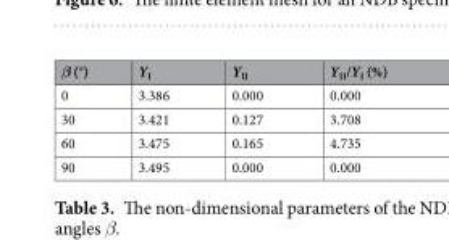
<table><thead><tr><td>β (°)</td><td>Y<sub>I</sub></td><td>Y<sub>II</sub></td><td>Y<sub>II</sub>/Y<sub>I</sub> (%)</td></tr></thead><tbody><tr><td>0</td><td>3.386</td><td>0.000</td><td>0.000</td></tr><tr><td>30</td><td>3.421</td><td>0.127</td><td>3.708</td></tr><tr><td>60</td><td>3.475</td><td>0.165</td><td>4.735</td></tr><tr><td>90</td><td>3.495</td><td>0.000</td><td>0.000</td></tr></tbody></table>